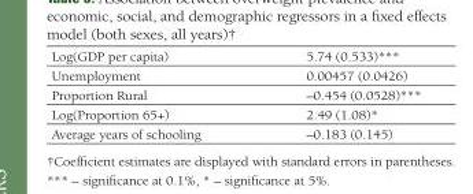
<table><tbody><tr><td>Log(GDP per capita)</td><td>5.74 (0.533)***</td></tr><tr><td>Unemployment</td><td>0.00457 (0.0426)</td></tr><tr><td>Proportion Rural</td><td>–0.454 (0.0528)***</td></tr><tr><td>Log(Proportion 65+)</td><td>2.49 (1.08)*</td></tr><tr><td>Average years of schooling</td><td>–0.183 (0.145)</td></tr></tbody></table>